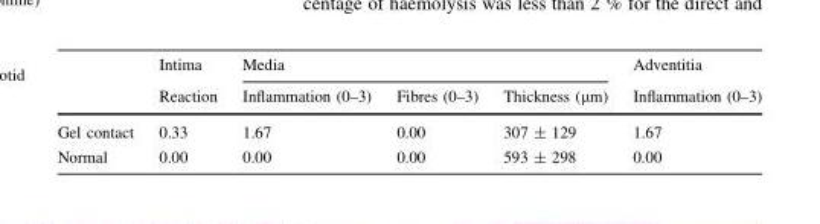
<table><thead><tr><td rowspan="2"></td><td rowspan="2">Intima Reaction</td><td colspan="3">Media</td><td rowspan="2">Adventitia Inflammation (0–3)</td></tr><tr><td>Inflammation (0–3)</td><td>Fibres (0–3)</td><td>Thickness (μm)</td></tr></thead><tbody><tr><td>Gel contact</td><td>0.33</td><td>1.67</td><td>0.00</td><td>307 ± 129</td><td>1.67</td></tr><tr><td>Normal</td><td>0.00</td><td>0.00</td><td>0.00</td><td>593 ± 298</td><td>0.00</td></tr></tbody></table>